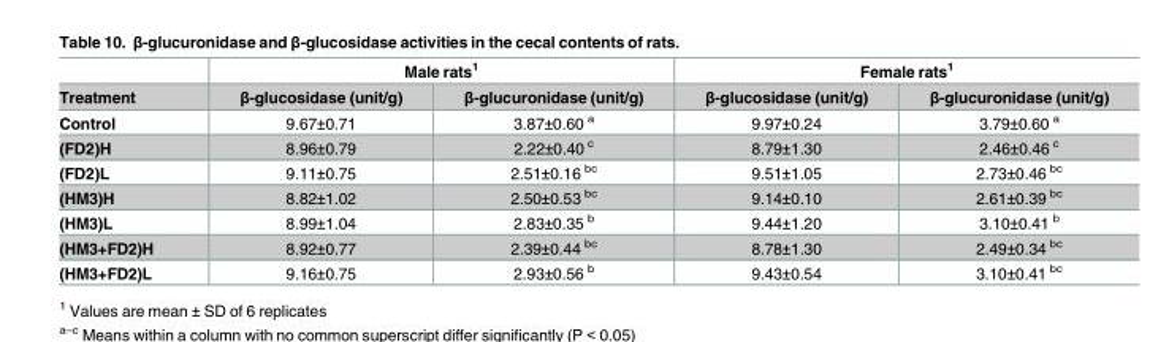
<table><thead><tr><td rowspan="2">Treatment</td><td colspan="2">Male rats<sup>1</sup></td><td colspan="2">Female rats<sup>1</sup></td></tr><tr><td>β-glucosidase (unit/g)</td><td>β-glucuronidase (unit/g)</td><td>β-glucosidase (unit/g)</td><td>β-glucuronidase (unit/g)</td></tr></thead><tbody><tr><td>Control</td><td>9.67±0.71</td><td>3.87±0.60 <sup>a</sup></td><td>9.97±0.24</td><td>3.79±0.60 <sup>a</sup></td></tr><tr><td>(FD2)H</td><td>8.96±0.79</td><td>2.22±0.40 <sup>c</sup></td><td>8.79±1.30</td><td>2.46±0.46 <sup>c</sup></td></tr><tr><td>(FD2)L</td><td>9.11±0.75</td><td>2.51±0.16 <sup>bc</sup></td><td>9.51±1.05</td><td>2.73±0.46 <sup>bc</sup></td></tr><tr><td>(HM3)H</td><td>8.82±1.02</td><td>2.50±0.53 <sup>bc</sup></td><td>9.14±0.10</td><td>2.61±0.39 <sup>bc</sup></td></tr><tr><td>(HM3)L</td><td>8.99±1.04</td><td>2.83±0.35 <sup>b</sup></td><td>9.44±1.20</td><td>3.10±0.41 <sup>b</sup></td></tr><tr><td>(HM3+FD2)H</td><td>8.92±0.77</td><td>2.39±0.44 <sup>bc</sup></td><td>8.78±1.30</td><td>2.49±0.34 <sup>bc</sup></td></tr><tr><td>(HM3+FD2)L</td><td>9.16±0.75</td><td>2.93±0.56 <sup>b</sup></td><td>9.43±0.54</td><td>3.10±0.41 <sup>bc</sup></td></tr></tbody></table>